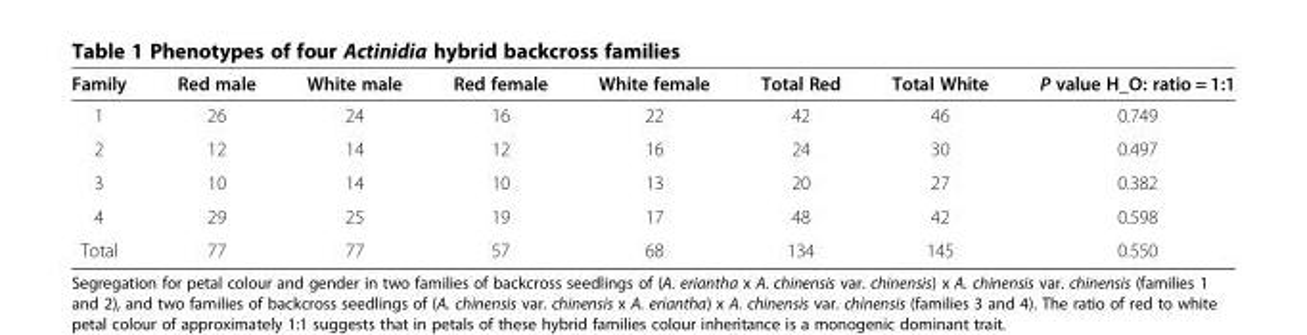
<table><thead><tr><td>Family</td><td>Red male</td><td>White male</td><td>Red female</td><td>White female</td><td>Total Red</td><td>Total White</td><td>P value H_O: ratio = 1:1</td></tr></thead><tbody><tr><td>1</td><td>26</td><td>24</td><td>16</td><td>22</td><td>42</td><td>46</td><td>0.749</td></tr><tr><td>2</td><td>12</td><td>14</td><td>12</td><td>16</td><td>24</td><td>30</td><td>0.497</td></tr><tr><td>3</td><td>10</td><td>14</td><td>10</td><td>13</td><td>20</td><td>27</td><td>0.382</td></tr><tr><td>4</td><td>29</td><td>25</td><td>19</td><td>17</td><td>48</td><td>42</td><td>0.598</td></tr><tr><td>Total</td><td>77</td><td>77</td><td>57</td><td>68</td><td>134</td><td>145</td><td>0.550</td></tr></tbody></table>